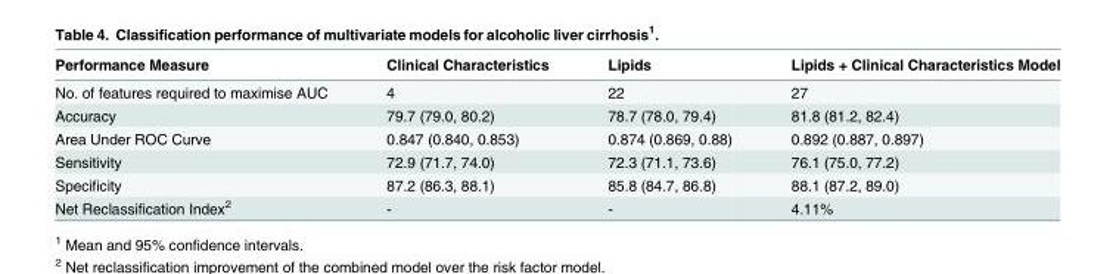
<table><thead><tr><td>Performance Measure</td><td>Clinical Characteristics</td><td>Lipids</td><td>Lipids + Clinical Characteristics Model</td></tr></thead><tbody><tr><td>No. of features required to maximise AUC</td><td>4</td><td>22</td><td>27</td></tr><tr><td>Accuracy</td><td>79.7 (79.0, 80.2)</td><td>78.7 (78.0, 79.4)</td><td>81.8 (81.2, 82.4)</td></tr><tr><td>Area Under ROC Curve</td><td>0.847 (0.840, 0.853)</td><td>0.874 (0.869, 0.88)</td><td>0.892 (0.887, 0.897)</td></tr><tr><td>Sensitivity</td><td>72.9 (71.7, 74.0)</td><td>72.3 (71.1, 73.6)</td><td>76.1 (75.0, 77.2)</td></tr><tr><td>Specificity</td><td>87.2 (86.3, 88.1)</td><td>85.8 (84.7, 86.8)</td><td>88.1 (87.2, 89.0)</td></tr><tr><td>Net Reclassification Index<sup>2</sup></td><td>-</td><td>-</td><td>4.11%</td></tr></tbody></table>